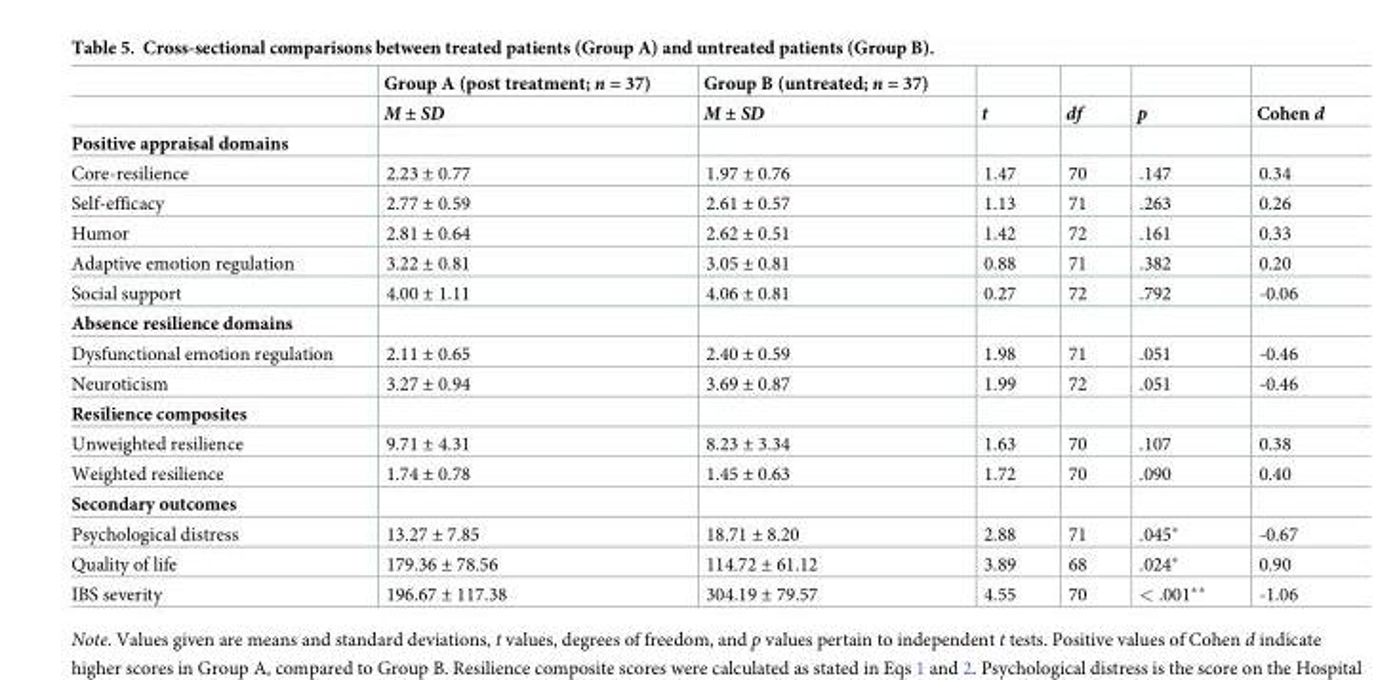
<table><thead><tr><td rowspan="2"></td><td rowspan="2">Group A (post treatment; n = 37) M ± SD</td><td rowspan="2">Group B (untreated; n = 37) M ± SD</td><td rowspan="2">t</td><td rowspan="2">df</td><td rowspan="2">p</td><td rowspan="2">Cohen d</td></tr><tr></tr></thead><tbody><tr><td colspan="7">Positive appraisal domains</td></tr><tr><td>Core-resilience</td><td>2.23 ± 0.77</td><td>1.97 ± 0.76</td><td>1.47</td><td>70</td><td>.147</td><td>0.34</td></tr><tr><td>Self-efficacy</td><td>2.77 ± 0.59</td><td>2.61 ± 0.57</td><td>1.13</td><td>71</td><td>.263</td><td>0.26</td></tr><tr><td>Humor</td><td>2.81 ± 0.64</td><td>2.62 ± 0.51</td><td>1.42</td><td>72</td><td>.161</td><td>0.33</td></tr><tr><td>Adaptive emotion regulation</td><td>3.22 ± 0.81</td><td>3.05 ± 0.81</td><td>0.88</td><td>71</td><td>.382</td><td>0.20</td></tr><tr><td>Social support</td><td>4.00 ± 1.11</td><td>4.06 ± 0.81</td><td>0.27</td><td>72</td><td>.792</td><td>-0.06</td></tr><tr><td colspan="7">Absence resilience domains</td></tr><tr><td>Dysfunctional emotion regulation</td><td>2.11 ± 0.65</td><td>2.40 ± 0.59</td><td>1.98</td><td>71</td><td>.051</td><td>-0.46</td></tr><tr><td>Neuroticism</td><td>3.27 ± 0.94</td><td>3.69 ± 0.87</td><td>1.99</td><td>72</td><td>.051</td><td>-0.46</td></tr><tr><td colspan="7">Resilience composites</td></tr><tr><td>Unweighted resilience</td><td>9.71 ± 4.31</td><td>8.23 ± 3.34</td><td>1.63</td><td>70</td><td>.107</td><td>0.38</td></tr><tr><td>Weighted resilience</td><td>1.74 ± 0.78</td><td>1.45 ± 0.63</td><td>1.72</td><td>70</td><td>.090</td><td>0.40</td></tr><tr><td colspan="7">Secondary outcomes</td></tr><tr><td>Psychological distress</td><td>13.27 ± 7.85</td><td>18.71 ± 8.20</td><td>2.88</td><td>71</td><td>.045*</td><td>-0.67</td></tr><tr><td>Quality of life</td><td>179.36 ± 78.56</td><td>114.72 ± 61.12</td><td>3.89</td><td>68</td><td>.024*</td><td>0.90</td></tr><tr><td>IBS severity</td><td>196.67 ± 117.38</td><td>304.19 ± 79.57</td><td>4.55</td><td>70</td><td>&lt; .001**</td><td>-1.06</td></tr></tbody></table>